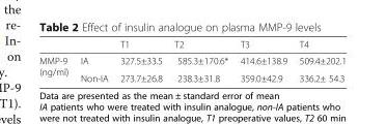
<table><thead><tr><td></td><td></td><td>T1</td><td>T2</td><td>T3</td><td>T4</td></tr></thead><tbody><tr><td rowspan="2">MMP-9 (ng/ml)</td><td>IA</td><td>327.5±33.5</td><td>585.3±170.6*</td><td>414.6±138.9</td><td>509.4±202.1</td></tr><tr><td>Non-IA</td><td>273.7±26.8</td><td>238.3±31.8</td><td>359.0±42.9</td><td>336.2± 54.3</td></tr></tbody></table>